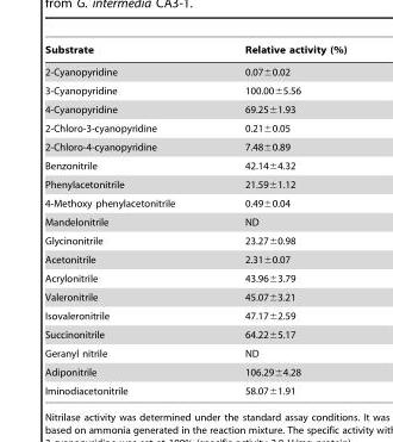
<table><thead><tr><td>Substrate</td><td>Relative activity (%)</td></tr></thead><tbody><tr><td>2-Cyanopyridine</td><td>0.07±0.02</td></tr><tr><td>3-Cyanopyridine</td><td>100.00±5.56</td></tr><tr><td>4-Cyanopyridine</td><td>69.25±1.93</td></tr><tr><td>2-Chloro-3-cyanopyridine</td><td>0.21±0.05</td></tr><tr><td>2-Chloro-4-cyanopyridine</td><td>7.48±0.89</td></tr><tr><td>Benzonitrile</td><td>42.14±4.32</td></tr><tr><td>Phenylacetonitrile</td><td>21.59±1.12</td></tr><tr><td>4-Methoxy phenylacetonitrile</td><td>0.49±0.04</td></tr><tr><td>Mandelonitrile</td><td>ND</td></tr><tr><td>Glycinonitrile</td><td>23.27±0.98</td></tr><tr><td>Acetonitrile</td><td>2.31±0.07</td></tr><tr><td>Acrylonitrile</td><td>43.96±3.79</td></tr><tr><td>Valeronitrile</td><td>45.07±3.21</td></tr><tr><td>Isovaleronitrile</td><td>47.17±2.59</td></tr><tr><td>Succinonitrile</td><td>64.22±5.17</td></tr><tr><td>Geranyl nitrile</td><td>ND</td></tr><tr><td>Adiponitrile</td><td>106.29±4.28</td></tr><tr><td>Iminodiacetonitrile</td><td>58.07±1.91</td></tr></tbody></table>